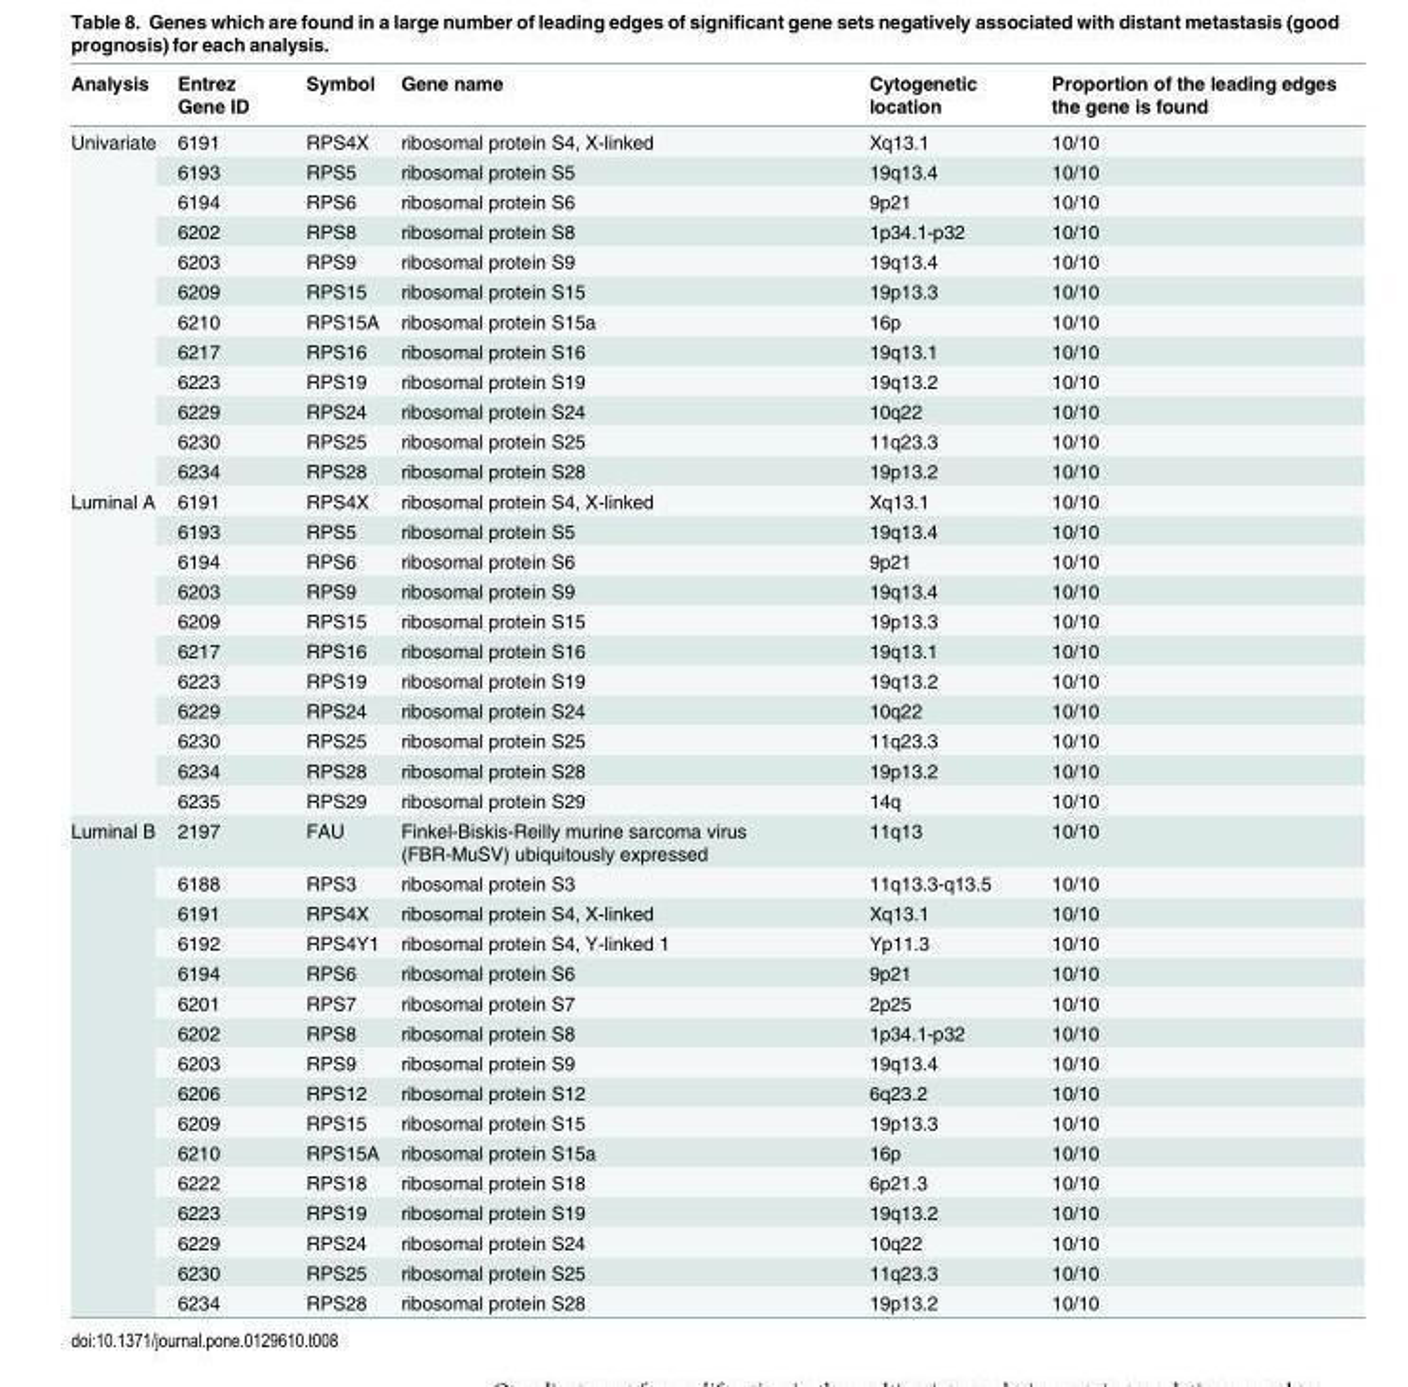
<table><thead><tr><td>Analysis</td><td>Entrez Gene ID</td><td>Symbol</td><td>Gene name</td><td>Cytogenetic location</td><td>Proportion of the leading edges the gene is found</td></tr></thead><tbody><tr><td rowspan="12">Univariate</td><td>6191</td><td>RPS4X</td><td>ribosomal protein S4, X-linked</td><td>Xq13.1</td><td>10/10</td></tr><tr><td>6193</td><td>RPS5</td><td>ribosomal protein S5</td><td>19q13.4</td><td>10/10</td></tr><tr><td>6194</td><td>RPS6</td><td>ribosomal protein S6</td><td>9p21</td><td>10/10</td></tr><tr><td>6202</td><td>RPS8</td><td>ribosomal protein S8</td><td>1p34.1-p32</td><td>10/10</td></tr><tr><td>6203</td><td>RPS9</td><td>ribosomal protein S9</td><td>19q13.4</td><td>10/10</td></tr><tr><td>6209</td><td>RPS15</td><td>ribosomal protein S15</td><td>19p13.3</td><td>10/10</td></tr><tr><td>6210</td><td>RPS15A</td><td>ribosomal protein S15a</td><td>16p</td><td>10/10</td></tr><tr><td>6217</td><td>RPS16</td><td>ribosomal protein S16</td><td>19q13.1</td><td>10/10</td></tr><tr><td>6223</td><td>RPS19</td><td>ribosomal protein S19</td><td>19q13.2</td><td>10/10</td></tr><tr><td>6229</td><td>RPS24</td><td>ribosomal protein S24</td><td>10q22</td><td>10/10</td></tr><tr><td>6230</td><td>RPS25</td><td>ribosomal protein S25</td><td>11q23.3</td><td>10/10</td></tr><tr><td>6234</td><td>RPS28</td><td>ribosomal protein S28</td><td>19p13.2</td><td>10/10</td></tr><tr><td rowspan="11">Luminal A</td><td>6191</td><td>RPS4X</td><td>ribosomal protein S4, X-linked</td><td>Xq13.1</td><td>10/10</td></tr><tr><td>6193</td><td>RPS5</td><td>ribosomal protein S5</td><td>19q13.4</td><td>10/10</td></tr><tr><td>6194</td><td>RPS6</td><td>ribosomal protein S6</td><td>9p21</td><td>10/10</td></tr><tr><td>6203</td><td>RPS9</td><td>ribosomal protein S9</td><td>19q13.4</td><td>10/10</td></tr><tr><td>6209</td><td>RPS15</td><td>ribosomal protein S15</td><td>19p13.3</td><td>10/10</td></tr><tr><td>6217</td><td>RPS16</td><td>ribosomal protein S16</td><td>19q13.1</td><td>10/10</td></tr><tr><td>6223</td><td>RPS19</td><td>ribosomal protein S19</td><td>19q13.2</td><td>10/10</td></tr><tr><td>6229</td><td>RPS24</td><td>ribosomal protein S24</td><td>10q22</td><td>10/10</td></tr><tr><td>6230</td><td>RPS25</td><td>ribosomal protein S25</td><td>11q23.3</td><td>10/10</td></tr><tr><td>6234</td><td>RPS28</td><td>ribosomal protein S28</td><td>19p13.2</td><td>10/10</td></tr><tr><td>6235</td><td>RPS29</td><td>ribosomal protein S29</td><td>14q</td><td>10/10</td></tr><tr><td rowspan="16">Luminal B</td><td>2197</td><td>FAU</td><td>Finkel-Biskis-Reilly murine sarcoma virus (FBR-MuSV) ubiquitously expressed</td><td>11q13</td><td>10/10</td></tr><tr><td>6188</td><td>RPS3</td><td>ribosomal protein S3</td><td>11q13.3-q13.5</td><td>10/10</td></tr><tr><td>6191</td><td>RPS4X</td><td>ribosomal protein S4, X-linked</td><td>Xq13.1</td><td>10/10</td></tr><tr><td>6192</td><td>RPS4Y1</td><td>ribosomal protein S4, Y-linked 1</td><td>Yp11.3</td><td>10/10</td></tr><tr><td>6194</td><td>RPS6</td><td>ribosomal protein S6</td><td>9p21</td><td>10/10</td></tr><tr><td>6201</td><td>RPS7</td><td>ribosomal protein S7</td><td>2p25</td><td>10/10</td></tr><tr><td>6202</td><td>RPS8</td><td>ribosomal protein S8</td><td>1p34.1-p32</td><td>10/10</td></tr><tr><td>6203</td><td>RPS9</td><td>ribosomal protein S9</td><td>19q13.4</td><td>10/10</td></tr><tr><td>6206</td><td>RPS12</td><td>ribosomal protein S12</td><td>6q23.2</td><td>10/10</td></tr><tr><td>6209</td><td>RPS15</td><td>ribosomal protein S15</td><td>19p13.3</td><td>10/10</td></tr><tr><td>6210</td><td>RPS15A</td><td>ribosomal protein S15a</td><td>16p</td><td>10/10</td></tr><tr><td>6222</td><td>RPS18</td><td>ribosomal protein S18</td><td>6p21.3</td><td>10/10</td></tr><tr><td>6223</td><td>RPS19</td><td>ribosomal protein S19</td><td>19q13.2</td><td>10/10</td></tr><tr><td>6229</td><td>RPS24</td><td>ribosomal protein S24</td><td>10q22</td><td>10/10</td></tr><tr><td>6230</td><td>RPS25</td><td>ribosomal protein S25</td><td>11q23.3</td><td>10/10</td></tr><tr><td>6234</td><td>RPS28</td><td>ribosomal protein S28</td><td>19p13.2</td><td>10/10</td></tr></tbody></table>